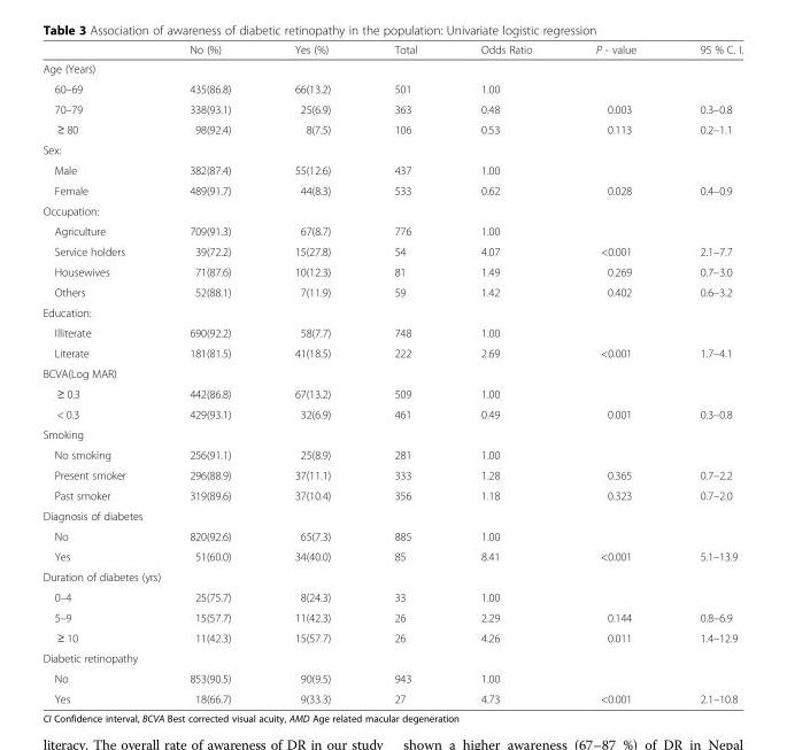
<table><thead><tr><td></td><td>No (%)</td><td>Yes (%)</td><td>Total</td><td>Odds Ratio</td><td>P - value</td><td>95 % C. I.</td></tr></thead><tbody><tr><td colspan="7">Age (Years)</td></tr><tr><td>60–69</td><td>435(86.8)</td><td>66(13.2)</td><td>501</td><td>1.00</td><td></td><td></td></tr><tr><td>70–79</td><td>338(93.1)</td><td>25(6.9)</td><td>363</td><td>0.48</td><td>0.003</td><td>0.3–0.8</td></tr><tr><td>≥ 80</td><td>98(92.4)</td><td>8(7.5)</td><td>106</td><td>0.53</td><td>0.113</td><td>0.2–1.1</td></tr><tr><td colspan="7">Sex:</td></tr><tr><td>Male</td><td>382(87.4)</td><td>55(12.6)</td><td>437</td><td>1.00</td><td></td><td></td></tr><tr><td>Female</td><td>489(91.7)</td><td>44(8.3)</td><td>533</td><td>0.62</td><td>0.028</td><td>0.4–0.9</td></tr><tr><td colspan="7">Occupation:</td></tr><tr><td>Agriculture</td><td>709(91.3)</td><td>67(8.7)</td><td>776</td><td>1.00</td><td></td><td></td></tr><tr><td>Service holders</td><td>39(72.2)</td><td>15(27.8)</td><td>54</td><td>4.07</td><td>&lt;0.001</td><td>2.1–7.7</td></tr><tr><td>Housewives</td><td>71(87.6)</td><td>10(12.3)</td><td>81</td><td>1.49</td><td>0.269</td><td>0.7–3.0</td></tr><tr><td>Others</td><td>52(88.1)</td><td>7(11.9)</td><td>59</td><td>1.42</td><td>0.402</td><td>0.6–3.2</td></tr><tr><td colspan="7">Education:</td></tr><tr><td>Illiterate</td><td>690(92.2)</td><td>58(7.7)</td><td>748</td><td>1.00</td><td></td><td></td></tr><tr><td>Literate</td><td>181(81.5)</td><td>41(18.5)</td><td>222</td><td>2.69</td><td>&lt;0.001</td><td>1.7–4.1</td></tr><tr><td colspan="7">BCVA(Log MAR)</td></tr><tr><td>≥ 0.3</td><td>442(86.8)</td><td>67(13.2)</td><td>509</td><td>1.00</td><td></td><td></td></tr><tr><td>&lt; 0.3</td><td>429(93.1)</td><td>32(6.9)</td><td>461</td><td>0.49</td><td>0.001</td><td>0.3–0.8</td></tr><tr><td colspan="7">Smoking</td></tr><tr><td>No smoking</td><td>256(91.1)</td><td>25(8.9)</td><td>281</td><td>1.00</td><td></td><td></td></tr><tr><td>Present smoker</td><td>296(88.9)</td><td>37(11.1)</td><td>333</td><td>1.28</td><td>0.365</td><td>0.7–2.2</td></tr><tr><td>Past smoker</td><td>319(89.6)</td><td>37(10.4)</td><td>356</td><td>1.18</td><td>0.323</td><td>0.7–2.0</td></tr><tr><td colspan="7">Diagnosis of diabetes</td></tr><tr><td>No</td><td>820(92.6)</td><td>65(7.3)</td><td>885</td><td>1.00</td><td></td><td></td></tr><tr><td>Yes</td><td>51(60.0)</td><td>34(40.0)</td><td>85</td><td>8.41</td><td>&lt;0.001</td><td>5.1–13.9</td></tr><tr><td colspan="7">Duration of diabetes (yrs)</td></tr><tr><td>0–4</td><td>25(75.7)</td><td>8(24.3)</td><td>33</td><td>1.00</td><td></td><td></td></tr><tr><td>5–9</td><td>15(57.7)</td><td>11(42.3)</td><td>26</td><td>2.29</td><td>0.144</td><td>0.8–6.9</td></tr><tr><td>≥ 10</td><td>11(42.3)</td><td>15(57.7)</td><td>26</td><td>4.26</td><td>0.011</td><td>1.4–12.9</td></tr><tr><td colspan="7">Diabetic retinopathy</td></tr><tr><td>No</td><td>853(90.5)</td><td>90(9.5)</td><td>943</td><td>1.00</td><td></td><td></td></tr><tr><td>Yes</td><td>18(66.7)</td><td>9(33.3)</td><td>27</td><td>4.73</td><td>&lt;0.001</td><td>2.1–10.8</td></tr></tbody></table>